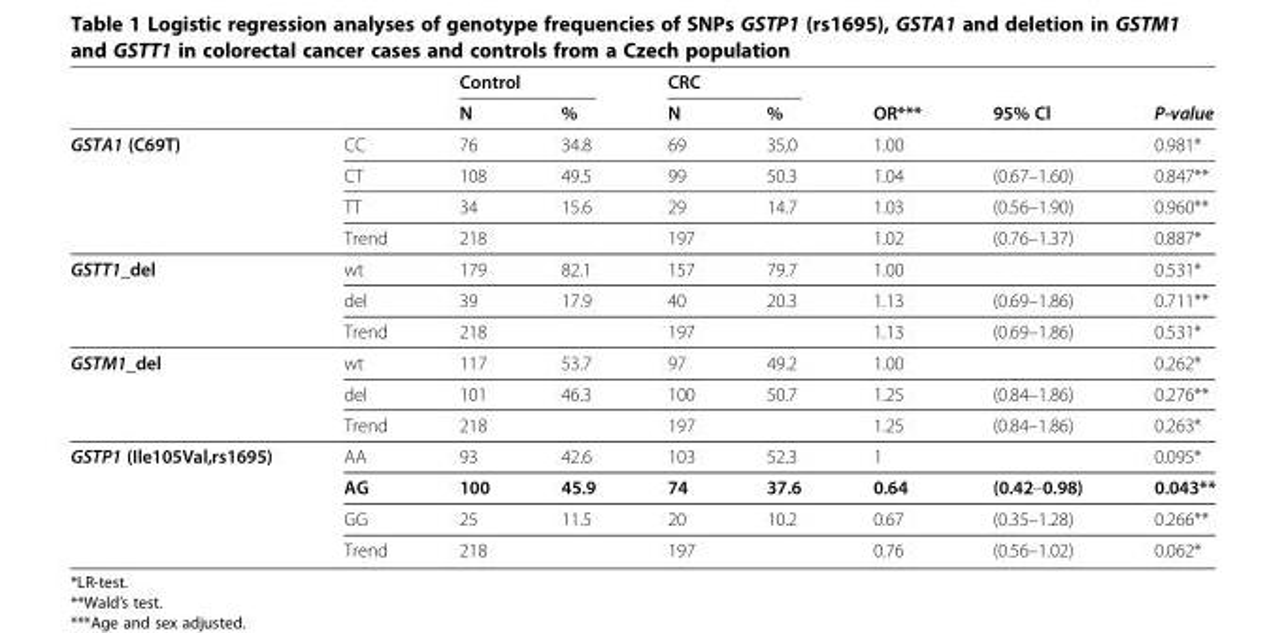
<table><thead><tr><td rowspan="2"></td><td rowspan="2"></td><td colspan="2">Control</td><td colspan="2">CRC</td><td rowspan="2">OR***</td><td rowspan="2">95% Cl</td><td rowspan="2">P-value</td></tr><tr><td>N</td><td>%</td><td>N</td><td>%</td></tr></thead><tbody><tr><td rowspan="4">GSTA1 (C69T)</td><td>CC</td><td>76</td><td>34.8</td><td>69</td><td>35,0</td><td>1.00</td><td></td><td>0.981*</td></tr><tr><td>CT</td><td>108</td><td>49.5</td><td>99</td><td>50.3</td><td>1.04</td><td>(0.67–1.60)</td><td>0.847**</td></tr><tr><td>TT</td><td>34</td><td>15.6</td><td>29</td><td>14.7</td><td>1.03</td><td>(0.56–1.90)</td><td>0.960**</td></tr><tr><td>Trend</td><td>218</td><td></td><td>197</td><td></td><td>1.02</td><td>(0.76–1.37)</td><td>0.887*</td></tr><tr><td rowspan="3">GSTT1_del</td><td>wt</td><td>179</td><td>82.1</td><td>157</td><td>79.7</td><td>1.00</td><td></td><td>0.531*</td></tr><tr><td>del</td><td>39</td><td>17.9</td><td>40</td><td>20.3</td><td>1.13</td><td>(0.69–1.86)</td><td>0.711**</td></tr><tr><td>Trend</td><td>218</td><td></td><td>197</td><td></td><td>1.13</td><td>(0.69–1.86)</td><td>0.531*</td></tr><tr><td rowspan="3">GSTM1_del</td><td>wt</td><td>117</td><td>53.7</td><td>97</td><td>49.2</td><td>1.00</td><td></td><td>0.262*</td></tr><tr><td>del</td><td>101</td><td>46.3</td><td>100</td><td>50.7</td><td>1.25</td><td>(0.84–1.86)</td><td>0.276**</td></tr><tr><td>Trend</td><td>218</td><td></td><td>197</td><td></td><td>1.25</td><td>(0.84–1.86)</td><td>0.263*</td></tr><tr><td rowspan="4">GSTP1 (Ile105Val,rs1695)</td><td>AA</td><td>93</td><td>42.6</td><td>103</td><td>52.3</td><td>1</td><td></td><td>0.095*</td></tr><tr><td>AG</td><td>100</td><td>45.9</td><td>74</td><td>37.6</td><td>0.64</td><td>(0.42–0.98)</td><td>0.043**</td></tr><tr><td>GG</td><td>25</td><td>11.5</td><td>20</td><td>10.2</td><td>0.67</td><td>(0.35–1.28)</td><td>0.266**</td></tr><tr><td>Trend</td><td>218</td><td></td><td>197</td><td></td><td>0.76</td><td>(0.56–1.02)</td><td>0.062*</td></tr></tbody></table>